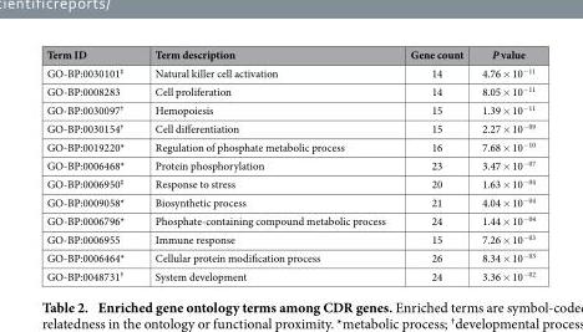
<table><thead><tr><td>Term ID</td><td>Term description</td><td>Gene count</td><td>P value</td></tr></thead><tbody><tr><td>GO-BP:0030101<sup>‡</sup></td><td>Natural killer cell activation</td><td>14</td><td>4.76 × 10<sup>−11</sup></td></tr><tr><td>GO-BP:0008283</td><td>Cell proliferation</td><td>14</td><td>8.05 × 10<sup>−11</sup></td></tr><tr><td>GO-BP:0030097<sup>†</sup></td><td>Hemopoiesis</td><td>15</td><td>1.39 × 10<sup>−11</sup></td></tr><tr><td>GO-BP:0030154<sup>†</sup></td><td>Cell differentiation</td><td>15</td><td>2.27 × 10<sup>−09</sup></td></tr><tr><td>GO-BP:0019220*</td><td>Regulation of phosphate metabolic process</td><td>16</td><td>7.68 × 10<sup>−10</sup></td></tr><tr><td>GO-BP:0006468*</td><td>Protein phosphorylation</td><td>23</td><td>3.47 × 10<sup>−07</sup></td></tr><tr><td>GO-BP:0006950<sup>‡</sup></td><td>Response to stress</td><td>20</td><td>1.63 × 10<sup>−04</sup></td></tr><tr><td>GO-BP:0009058*</td><td>Biosynthetic process</td><td>21</td><td>4.04 × 10<sup>−04</sup></td></tr><tr><td>GO-BP:0006796*</td><td>Phosphate-containing compound metabolic process</td><td>24</td><td>1.44 × 10<sup>−04</sup></td></tr><tr><td>GO-BP:0006955</td><td>Immune response</td><td>15</td><td>7.26 × 10<sup>−03</sup></td></tr><tr><td>GO-BP:0006464*</td><td>Cellular protein modification process</td><td>26</td><td>8.34 × 10<sup>−03</sup></td></tr><tr><td>GO-BP:0048731<sup>†</sup></td><td>System development</td><td>24</td><td>3.36 × 10<sup>−02</sup></td></tr></tbody></table>